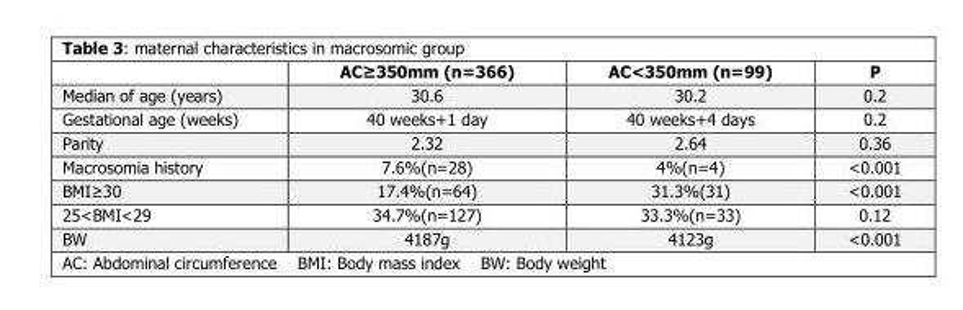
<table><thead><tr><td></td><td>AC≥350mm (n=366)</td><td>AC&lt;350mm (n=99)</td><td>P</td></tr></thead><tbody><tr><td>Median of age (years)</td><td>30.6</td><td>30.2</td><td>0.2</td></tr><tr><td>Gestational age (weeks)</td><td>40 weeks+1 day</td><td>40 weeks+4 days</td><td>0.2</td></tr><tr><td>Parity</td><td>2.32</td><td>2.64</td><td>0.36</td></tr><tr><td>Macrosomia history</td><td>7.6%(n=28)</td><td>4%(n=4)</td><td>&lt;0.001</td></tr><tr><td>BMI≥30</td><td>17.4%(n=64)</td><td>31.3%(31)</td><td>&lt;0.001</td></tr><tr><td>25&lt;BMI&lt;29</td><td>34.7%(n=127)</td><td>33.3%(n=33)</td><td>0.12</td></tr><tr><td>BW</td><td>4187g</td><td>4123g</td><td>&lt;0.001</td></tr></tbody></table>